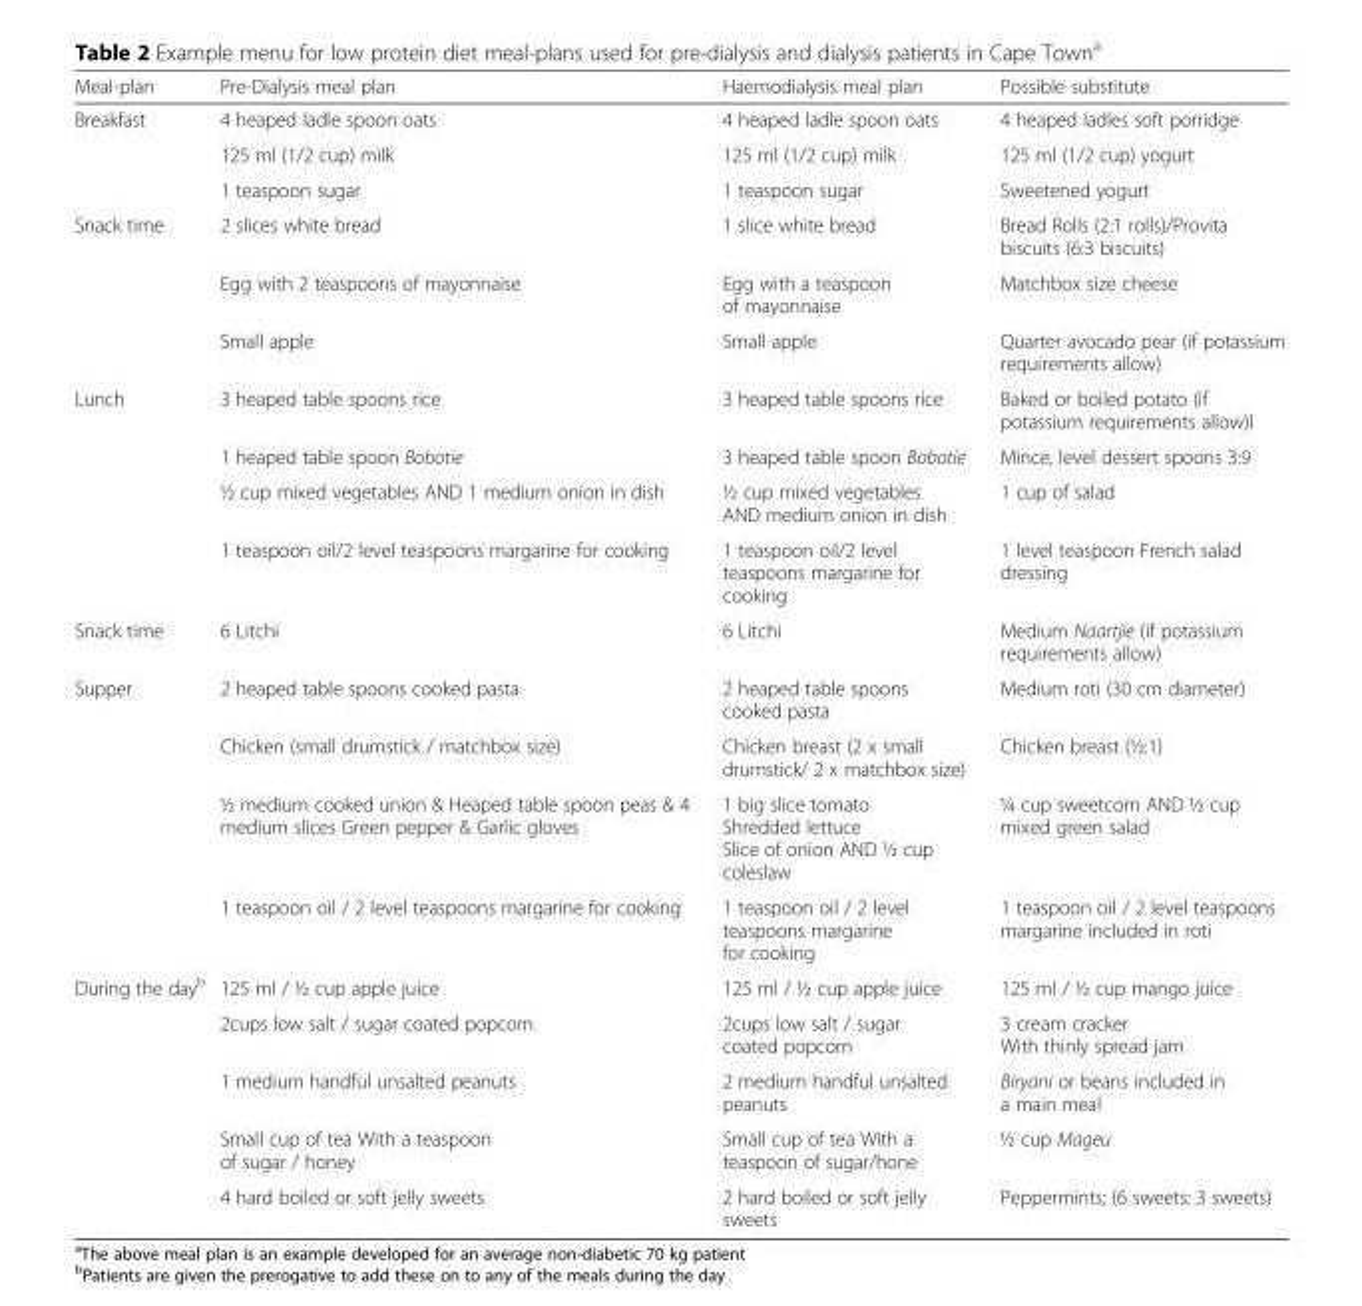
<table><thead><tr><td>Meal-plan</td><td>Pre-Dialysis meal plan</td><td>Haemodialysis meal plan</td><td>Possible substitute</td></tr></thead><tbody><tr><td rowspan="3">Breakfast</td><td>4 heaped ladle spoon oats</td><td>4 heaped ladle spoon oats</td><td>4 heaped ladles soft porridge</td></tr><tr><td>125 ml (1/2 cup) milk</td><td>125 ml (1/2 cup) milk</td><td>125 ml (1/2 cup) yogurt</td></tr><tr><td>1 teaspoon sugar</td><td>1 teaspoon sugar</td><td>Sweetened yogurt</td></tr><tr><td rowspan="3">Snack time</td><td>2 slices white bread</td><td>1 slice white bread</td><td>Bread Rolls (2:1 rolls)/Provita biscuits (6:3 biscuits)</td></tr><tr><td>Egg with 2 teaspoons of mayonnaise</td><td>Egg with a teaspoon of mayonnaise</td><td>Matchbox size cheese</td></tr><tr><td>Small apple</td><td>Small apple</td><td>Quarter avocado pear (if potassium requirements allow)</td></tr><tr><td rowspan="4">Lunch</td><td>3 heaped table spoons rice</td><td>3 heaped table spoons rice</td><td>Baked or boiled potato (if potassium requirements allow)l</td></tr><tr><td>1 heaped table spoon Bobotie</td><td>3 heaped table spoon Bobotie</td><td>Mince, level dessert spoons 3:9</td></tr><tr><td>½ cup mixed vegetables AND 1 medium onion in dish</td><td>½ cup mixed vegetables AND medium onion in dish</td><td>1 cup of salad</td></tr><tr><td>1 teaspoon oil/2 level teaspoons margarine for cooking</td><td>1 teaspoon oil/2 level teaspoons margarine for cooking</td><td>1 level teaspoon French salad dressing</td></tr><tr><td>Snack time</td><td>6 Litchi</td><td>6 Litchi</td><td>Medium Naartjie (if potassium requirements allow)</td></tr><tr><td rowspan="4">Supper</td><td>2 heaped table spoons cooked pasta</td><td>2 heaped table spoons cooked pasta</td><td>Medium roti (30 cm diameter)</td></tr><tr><td>Chicken (small drumstick / matchbox size)</td><td>Chicken breast (2 x small drumstick/ 2 x matchbox size)</td><td>Chicken breast (½:1)</td></tr><tr><td>½ medium cooked union &amp; Heaped table spoon peas &amp; 4 medium slices Green pepper &amp; Garlic gloves</td><td>1 big slice tomato Shredded lettuce Slice of onion AND ½ cup coleslaw</td><td>¼ cup sweetcorn AND ½ cup mixed green salad</td></tr><tr><td>1 teaspoon oil / 2 level teaspoons margarine for cooking</td><td>1 teaspoon oil / 2 level teaspoons margarine for cooking</td><td>1 teaspoon oil / 2 level teaspoons margarine included in roti</td></tr><tr><td rowspan="5">During the day<sup>b</sup></td><td>125 ml / ½ cup apple juice</td><td>125 ml / ½ cup apple juice</td><td>125 ml / ½ cup mango juice</td></tr><tr><td>2cups low salt / sugar coated popcorn</td><td>2cups low salt / sugar coated popcorn</td><td>3 cream cracker With thinly spread jam</td></tr><tr><td>1 medium handful unsalted peanuts</td><td>2 medium handful unsalted peanuts</td><td>Biryani or beans included in a main meal</td></tr><tr><td>Small cup of tea With a teaspoon of sugar / honey</td><td>Small cup of tea With a teaspoon of sugar/hone</td><td>½ cup Mageu</td></tr><tr><td>4 hard boiled or soft jelly sweets</td><td>2 hard boiled or soft jelly sweets</td><td>Peppermints; (6 sweets: 3 sweets)</td></tr></tbody></table>